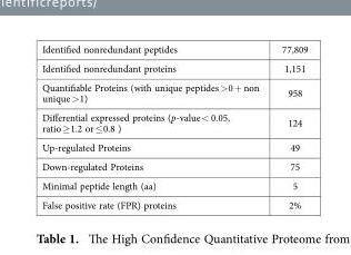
<table><tbody><tr><td>Identified nonredundant peptides</td><td>77,809</td></tr><tr><td>Identified nonredundant proteins</td><td>1,151</td></tr><tr><td>Quantifiable Proteins (with unique peptides &gt; 0 + non unique &gt; 1)</td><td>958</td></tr><tr><td>Differential expressed proteins (p-value &lt; 0.05, ratio ≥ 1.2 or ≤ 0.8 )</td><td>124</td></tr><tr><td>Up-regulated Proteins</td><td>49</td></tr><tr><td>Down-regulated Proteins</td><td>75</td></tr><tr><td>Minimal peptide length (aa)</td><td>5</td></tr><tr><td>False positive rate (FPR) proteins</td><td>2%</td></tr></tbody></table>